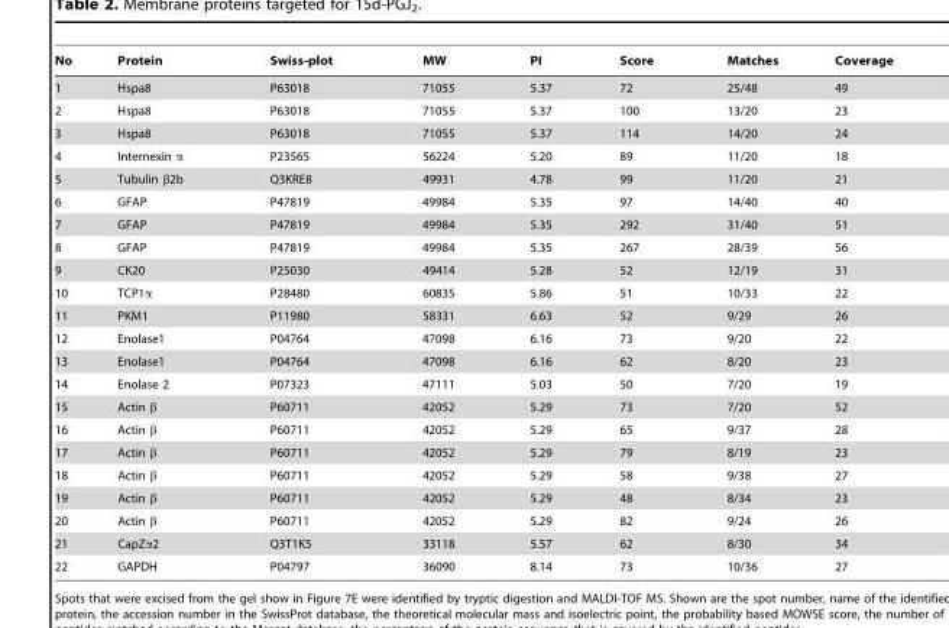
<table><thead><tr><td>No</td><td>Protein</td><td>Swiss-plot</td><td>MW</td><td>PI</td><td>Score</td><td>Matches</td><td>Coverage</td></tr></thead><tbody><tr><td>1</td><td>Hspa8</td><td>P63018</td><td>71055</td><td>5.37</td><td>72</td><td>25/48</td><td>49</td></tr><tr><td>2</td><td>Hspa8</td><td>P63018</td><td>71055</td><td>5.37</td><td>100</td><td>13/20</td><td>23</td></tr><tr><td>3</td><td>Hspa8</td><td>P63018</td><td>71055</td><td>5.37</td><td>114</td><td>14/20</td><td>24</td></tr><tr><td>4</td><td>Internexin α</td><td>P23565</td><td>56224</td><td>5.20</td><td>89</td><td>11/20</td><td>18</td></tr><tr><td>5</td><td>Tubulin β2b</td><td>Q3KRE8</td><td>49931</td><td>4.78</td><td>99</td><td>11/20</td><td>21</td></tr><tr><td>6</td><td>GFAP</td><td>P47819</td><td>49984</td><td>5.35</td><td>97</td><td>14/40</td><td>40</td></tr><tr><td>7</td><td>GFAP</td><td>P47819</td><td>49984</td><td>5.35</td><td>292</td><td>31/40</td><td>51</td></tr><tr><td>8</td><td>GFAP</td><td>P47819</td><td>49984</td><td>5.35</td><td>267</td><td>28/39</td><td>56</td></tr><tr><td>9</td><td>CK20</td><td>P25030</td><td>49414</td><td>5.28</td><td>52</td><td>12/19</td><td>31</td></tr><tr><td>10</td><td>TCP1α</td><td>P28480</td><td>60835</td><td>5.86</td><td>51</td><td>10/33</td><td>22</td></tr><tr><td>11</td><td>PKM1</td><td>P11980</td><td>58331</td><td>6.63</td><td>52</td><td>9/29</td><td>26</td></tr><tr><td>12</td><td>Enolase1</td><td>P04764</td><td>47098</td><td>6.16</td><td>73</td><td>9/20</td><td>22</td></tr><tr><td>13</td><td>Enolase1</td><td>P04764</td><td>47098</td><td>6.16</td><td>62</td><td>8/20</td><td>23</td></tr><tr><td>14</td><td>Enolase 2</td><td>P07323</td><td>47111</td><td>5.03</td><td>50</td><td>7/20</td><td>19</td></tr><tr><td>15</td><td>Actin β</td><td>P60711</td><td>42052</td><td>5.29</td><td>73</td><td>7/20</td><td>52</td></tr><tr><td>16</td><td>Actin β</td><td>P60711</td><td>42052</td><td>5.29</td><td>65</td><td>9/37</td><td>28</td></tr><tr><td>17</td><td>Actin β</td><td>P60711</td><td>42052</td><td>5.29</td><td>79</td><td>8/19</td><td>23</td></tr><tr><td>18</td><td>Actin β</td><td>P60711</td><td>42052</td><td>5.29</td><td>58</td><td>9/38</td><td>27</td></tr><tr><td>19</td><td>Actin β</td><td>P60711</td><td>42052</td><td>5.29</td><td>48</td><td>8/34</td><td>23</td></tr><tr><td>20</td><td>Actin β</td><td>P60711</td><td>42052</td><td>5.29</td><td>82</td><td>9/24</td><td>26</td></tr><tr><td>21</td><td>CapZα2</td><td>Q3T1K5</td><td>33118</td><td>5.57</td><td>62</td><td>8/30</td><td>34</td></tr><tr><td>22</td><td>GAPDH</td><td>P04797</td><td>36090</td><td>8.14</td><td>73</td><td>10/36</td><td>27</td></tr></tbody></table>